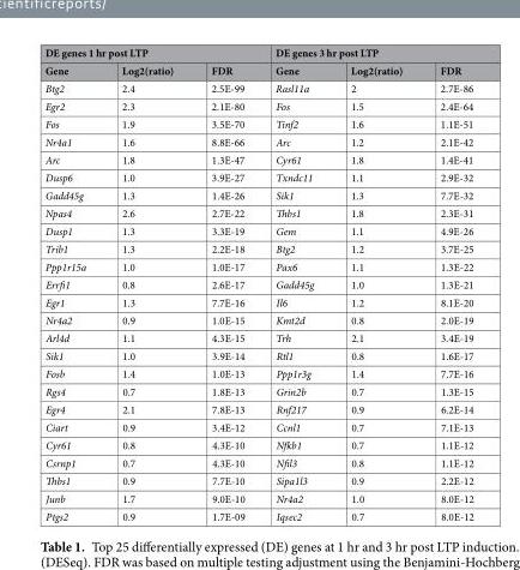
<table><thead><tr><td colspan="3">DE genes 1 hr post LTP</td><td colspan="3">DE genes 3 hr post LTP</td></tr><tr><td>Gene</td><td>Log2(ratio)</td><td>FDR</td><td>Gene</td><td>Log2(ratio)</td><td>FDR</td></tr></thead><tbody><tr><td>Btg2</td><td>2.4</td><td>2.5E-99</td><td>Rasl11a</td><td>2</td><td>2.7E-86</td></tr><tr><td>Egr2</td><td>2.3</td><td>2.1E-80</td><td>Fos</td><td>1.5</td><td>2.4E-64</td></tr><tr><td>Fos</td><td>1.9</td><td>3.5E-70</td><td>Tinf2</td><td>1.6</td><td>1.1E-51</td></tr><tr><td>Nr4a1</td><td>1.6</td><td>8.8E-66</td><td>Arc</td><td>1.2</td><td>2.1E-42</td></tr><tr><td>Arc</td><td>1.8</td><td>1.3E-47</td><td>Cyr61</td><td>1.8</td><td>1.4E-41</td></tr><tr><td>Dusp6</td><td>1.0</td><td>3.9E-27</td><td>Txndc11</td><td>1.1</td><td>2.9E-32</td></tr><tr><td>Gadd45g</td><td>1.3</td><td>1.4E-26</td><td>Sik1</td><td>1.3</td><td>7.7E-32</td></tr><tr><td>Npas4</td><td>2.6</td><td>2.7E-22</td><td>Thbs1</td><td>1.8</td><td>2.3E-31</td></tr><tr><td>Dusp1</td><td>1.3</td><td>3.3E-19</td><td>Gem</td><td>1.1</td><td>4.9E-26</td></tr><tr><td>Trib1</td><td>1.3</td><td>2.2E-18</td><td>Btg2</td><td>1.2</td><td>3.7E-25</td></tr><tr><td>Ppp1r15a</td><td>1.0</td><td>1.0E-17</td><td>Pax6</td><td>1.1</td><td>1.3E-22</td></tr><tr><td>Errfi1</td><td>0.8</td><td>2.6E-17</td><td>Gadd45g</td><td>1.0</td><td>1.3E-21</td></tr><tr><td>Egr1</td><td>1.3</td><td>7.7E-16</td><td>Il6</td><td>1.2</td><td>8.1E-20</td></tr><tr><td>Nr4a2</td><td>0.9</td><td>1.0E-15</td><td>Kmt2d</td><td>0.8</td><td>2.0E-19</td></tr><tr><td>Arl4d</td><td>1.1</td><td>4.3E-15</td><td>Trh</td><td>2.1</td><td>3.4E-19</td></tr><tr><td>Sik1</td><td>1.0</td><td>3.9E-14</td><td>Rtl1</td><td>0.8</td><td>1.6E-17</td></tr><tr><td>Fosb</td><td>1.4</td><td>1.0E-13</td><td>Ppp1r3g</td><td>1.4</td><td>7.7E-16</td></tr><tr><td>Rgs4</td><td>0.7</td><td>1.8E-13</td><td>Grin2b</td><td>0.7</td><td>1.3E-15</td></tr><tr><td>Egr4</td><td>2.1</td><td>7.8E-13</td><td>Rnf217</td><td>0.9</td><td>6.2E-14</td></tr><tr><td>Ciart</td><td>0.9</td><td>3.4E-12</td><td>Ccnl1</td><td>0.7</td><td>7.1E-13</td></tr><tr><td>Cyr61</td><td>0.8</td><td>4.3E-10</td><td>Nfkb1</td><td>0.7</td><td>1.1E-12</td></tr><tr><td>Csrnp1</td><td>0.7</td><td>4.3E-10</td><td>Nfil3</td><td>0.8</td><td>1.1E-12</td></tr><tr><td>Thbs1</td><td>0.9</td><td>7.7E-10</td><td>Sipa1l3</td><td>0.9</td><td>2.2E-12</td></tr><tr><td>Junb</td><td>1.7</td><td>9.0E-10</td><td>Nr4a2</td><td>1.0</td><td>8.0E-12</td></tr><tr><td>Ptgs2</td><td>0.9</td><td>1.7E-09</td><td>Iqsec2</td><td>0.7</td><td>8.0E-12</td></tr></tbody></table>